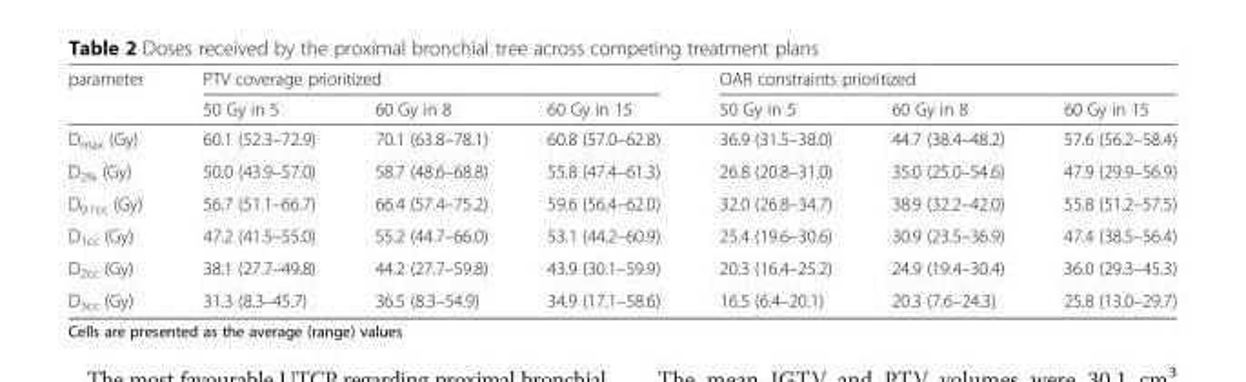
<table><thead><tr><td rowspan="2">parameter</td><td colspan="3">PTV coverage prioritized</td><td colspan="3">OAR constraints prioritized</td></tr><tr><td>50 Gy in 5</td><td>60 Gy in 8</td><td>60 Gy in 15</td><td>50 Gy in 5</td><td>60 Gy in 8</td><td>60 Gy in 15</td></tr></thead><tbody><tr><td>D<sub>max</sub> (Gy)</td><td>60.1 (52.3–72.9)</td><td>70.1 (63.8–78.1)</td><td>60.8 (57.0–62.8)</td><td>36.9 (31.5–38.0)</td><td>44.7 (38.4–48.2)</td><td>57.6 (56.2–58.4)</td></tr><tr><td>D<sub>2%</sub> (Gy)</td><td>50.0 (43.9–57.0)</td><td>58.7 (48.6–68.8)</td><td>55.8 (47.4–61.3)</td><td>26.8 (20.8–31.0)</td><td>35.0 (25.0–54.6)</td><td>47.9 (29.9–56.9)</td></tr><tr><td>D<sub>0.1cc</sub> (Gy)</td><td>56.7 (51.1–66.7)</td><td>66.4 (57.4–75.2)</td><td>59.6 (56.4–62.0)</td><td>32.0 (26.8–34.7)</td><td>38.9 (32.2–42.0)</td><td>55.8 (51.2–57.5)</td></tr><tr><td>D<sub>1cc</sub> (Gy)</td><td>47.2 (41.5–55.0)</td><td>55.2 (44.7–66.0)</td><td>53.1 (44.2–60.9)</td><td>25.4 (19.6–30.6)</td><td>30.9 (23.5–36.9)</td><td>47.4 (38.5–56.4)</td></tr><tr><td>D<sub>2cc</sub> (Gy)</td><td>38.1 (27.7–49.8)</td><td>44.2 (27.7–59.8)</td><td>43.9 (30.1–59.9)</td><td>20.3 (16.4–25.2)</td><td>24.9 (19.4–30.4)</td><td>36.0 (29.3–45.3)</td></tr><tr><td>D<sub>3cc</sub> (Gy)</td><td>31.3 (8.3–45.7)</td><td>36.5 (8.3–54.9)</td><td>34.9 (17.1–58.6)</td><td>16.5 (6.4–20.1)</td><td>20.3 (7.6–24.3)</td><td>25.8 (13.0–29.7)</td></tr></tbody></table>